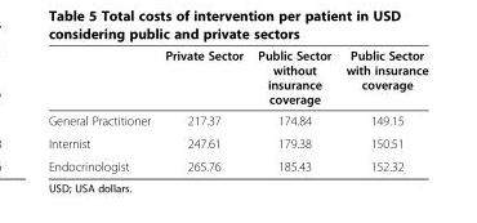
<table><thead><tr><td></td><td>Private Sector</td><td>Public Sector without insurance coverage</td><td>Public Sector with insurance coverage</td></tr></thead><tbody><tr><td>General Practitioner</td><td>217.37</td><td>174.84</td><td>149.15</td></tr><tr><td>Internist</td><td>247.61</td><td>179.38</td><td>150.51</td></tr><tr><td>Endocrinologist</td><td>265.76</td><td>185.43</td><td>152.32</td></tr></tbody></table>